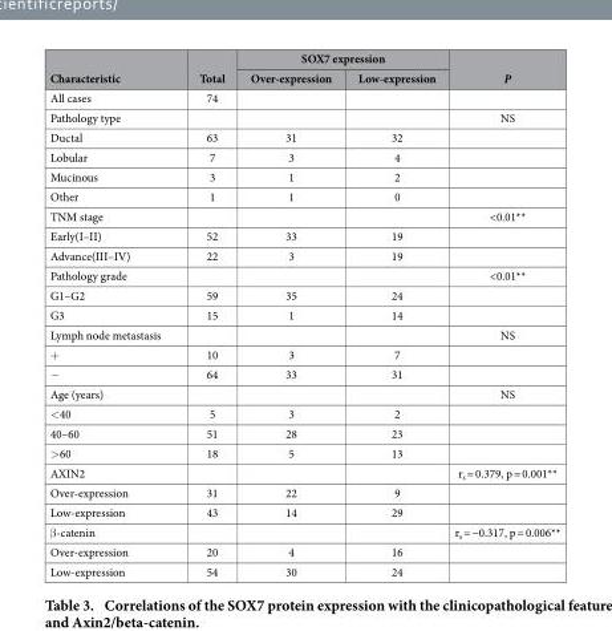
<table><thead><tr><td rowspan="2">Characteristic</td><td rowspan="2">Total</td><td colspan="2">SOX7 expression</td><td rowspan="2">P</td></tr><tr><td>Over-expression</td><td>Low-expression</td></tr></thead><tbody><tr><td>All cases</td><td>74</td><td></td><td></td><td></td></tr><tr><td>Pathology type</td><td></td><td></td><td></td><td>NS</td></tr><tr><td>Ductal</td><td>63</td><td>31</td><td>32</td><td></td></tr><tr><td>Lobular</td><td>7</td><td>3</td><td>4</td><td></td></tr><tr><td>Mucinous</td><td>3</td><td>1</td><td>2</td><td></td></tr><tr><td>Other</td><td>1</td><td>1</td><td>0</td><td></td></tr><tr><td>TNM stage</td><td></td><td></td><td></td><td>&lt;0.01**</td></tr><tr><td>Early(I–II)</td><td>52</td><td>33</td><td>19</td><td></td></tr><tr><td>Advance(III–IV)</td><td>22</td><td>3</td><td>19</td><td></td></tr><tr><td>Pathology grade</td><td></td><td></td><td></td><td>&lt;0.01**</td></tr><tr><td>G1–G2</td><td>59</td><td>35</td><td>24</td><td></td></tr><tr><td>G3</td><td>15</td><td>1</td><td>14</td><td></td></tr><tr><td>Lymph node metastasis</td><td></td><td></td><td></td><td>NS</td></tr><tr><td>+</td><td>10</td><td>3</td><td>7</td><td></td></tr><tr><td>−</td><td>64</td><td>33</td><td>31</td><td></td></tr><tr><td>Age (years)</td><td></td><td></td><td></td><td>NS</td></tr><tr><td>&lt; 40</td><td>5</td><td>3</td><td>2</td><td></td></tr><tr><td>40–60</td><td>51</td><td>28</td><td>23</td><td></td></tr><tr><td>&gt; 60</td><td>18</td><td>5</td><td>13</td><td></td></tr><tr><td>AXIN2</td><td></td><td></td><td></td><td>r<sub>s</sub> = 0.379, p = 0.001**</td></tr><tr><td>Over-expression</td><td>31</td><td>22</td><td>9</td><td></td></tr><tr><td>Low-expression</td><td>43</td><td>14</td><td>29</td><td></td></tr><tr><td>β -catenin</td><td></td><td></td><td></td><td>r<sub>s</sub> = −0.317, p = 0.006**</td></tr><tr><td>Over-expression</td><td>20</td><td>4</td><td>16</td><td></td></tr><tr><td>Low-expression</td><td>54</td><td>30</td><td>24</td><td></td></tr></tbody></table>